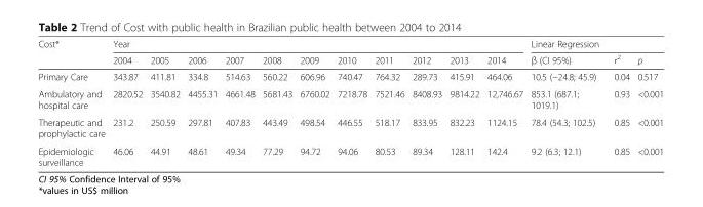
<table><thead><tr><td rowspan="2">Cost*</td><td colspan="11">Year</td><td colspan="3">Linear Regression</td></tr><tr><td>2004</td><td>2005</td><td>2006</td><td>2007</td><td>2008</td><td>2009</td><td>2010</td><td>2011</td><td>2012</td><td>2013</td><td>2014</td><td>β (CI 95%)</td><td>r<sup>2</sup></td><td>p</td></tr></thead><tbody><tr><td>Primary Care</td><td>343.87</td><td>411.81</td><td>334.8</td><td>514.63</td><td>560.22</td><td>606.96</td><td>740.47</td><td>764.32</td><td>289.73</td><td>415.91</td><td>464.06</td><td>10.5 (−24.8; 45.9)</td><td>0.04</td><td>0.517</td></tr><tr><td>Ambulatory and hospital care</td><td>2820.52</td><td>3540.82</td><td>4455.31</td><td>4661.48</td><td>5681.43</td><td>6760.02</td><td>7218.78</td><td>7521.46</td><td>8408.93</td><td>9814.22</td><td>12,746.67</td><td>853.1 (687.1; 1019.1)</td><td>0.93</td><td>&lt;0.001</td></tr><tr><td>Therapeutic and prophylactic care</td><td>231.2</td><td>250.59</td><td>297.81</td><td>407.83</td><td>443.49</td><td>498.54</td><td>446.55</td><td>518.17</td><td>833.95</td><td>832.23</td><td>1124.15</td><td>78.4 (54.3; 102.5)</td><td>0.85</td><td>&lt;0.001</td></tr><tr><td>Epidemiologic surveillance</td><td>46.06</td><td>44.91</td><td>48.61</td><td>49.34</td><td>77.29</td><td>94.72</td><td>94.06</td><td>80.53</td><td>89.34</td><td>128.11</td><td>142.4</td><td>9.2 (6.3; 12.1)</td><td>0.85</td><td>&lt;0.001</td></tr></tbody></table>